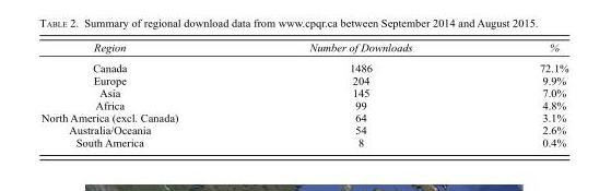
<table><thead><tr><td>Region</td><td>Number of Downloads</td><td>%</td></tr></thead><tbody><tr><td>Canada</td><td>1486</td><td>72.1%</td></tr><tr><td>Europe</td><td>204</td><td>9.9%</td></tr><tr><td>Asia</td><td>145</td><td>7.0%</td></tr><tr><td>Africa</td><td>99</td><td>4.8%</td></tr><tr><td>North America (excl. Canada)</td><td>64</td><td>3.1%</td></tr><tr><td>Australia/Oceania</td><td>54</td><td>2.6%</td></tr><tr><td>South America</td><td>8</td><td>0.4%</td></tr></tbody></table>